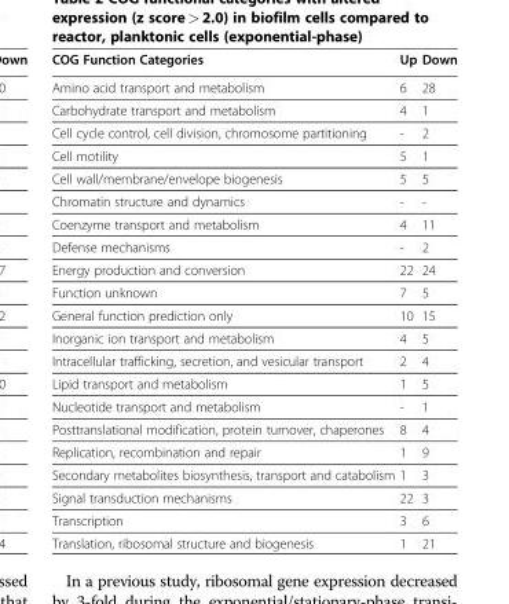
<table><thead><tr><td>COG Function Categories</td><td>Up</td><td>Down</td></tr></thead><tbody><tr><td>Amino acid transport and metabolism</td><td>6</td><td>28</td></tr><tr><td>Carbohydrate transport and metabolism</td><td>4</td><td>1</td></tr><tr><td>Cell cycle control, cell division, chromosome partitioning</td><td>-</td><td>2</td></tr><tr><td>Cell motility</td><td>5</td><td>1</td></tr><tr><td>Cell wall/membrane/envelope biogenesis</td><td>5</td><td>5</td></tr><tr><td>Chromatin structure and dynamics</td><td>-</td><td>-</td></tr><tr><td>Coenzyme transport and metabolism</td><td>4</td><td>11</td></tr><tr><td>Defense mechanisms</td><td>-</td><td>2</td></tr><tr><td>Energy production and conversion</td><td>22</td><td>24</td></tr><tr><td>Function unknown</td><td>7</td><td>5</td></tr><tr><td>General function prediction only</td><td>10</td><td>15</td></tr><tr><td>Inorganic ion transport and metabolism</td><td>4</td><td>5</td></tr><tr><td>Intracellular trafficking, secretion, and vesicular transport</td><td>2</td><td>4</td></tr><tr><td>Lipid transport and metabolism</td><td>1</td><td>5</td></tr><tr><td>Nucleotide transport and metabolism</td><td>-</td><td>1</td></tr><tr><td>Posttranslational modification, protein turnover, chaperones</td><td>8</td><td>4</td></tr><tr><td>Replication, recombination and repair</td><td>1</td><td>9</td></tr><tr><td>Secondary metabolites biosynthesis, transport and catabolism</td><td>1</td><td>3</td></tr><tr><td>Signal transduction mechanisms</td><td>22</td><td>3</td></tr><tr><td>Transcription</td><td>3</td><td>6</td></tr><tr><td>Translation, ribosomal structure and biogenesis</td><td>1</td><td>21</td></tr></tbody></table>